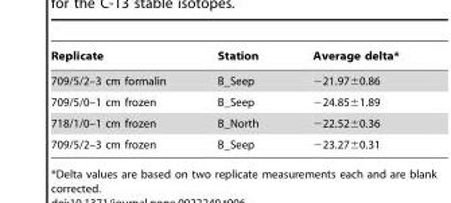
<table><thead><tr><td>Replicate</td><td>Station</td><td>Average delta*</td></tr></thead><tbody><tr><td>709/5/2–3 cm formalin</td><td>B_Seep</td><td>−21.97±0.86</td></tr><tr><td>709/5/0–1 cm frozen</td><td>B_Seep</td><td>−24.85±1.89</td></tr><tr><td>718/1/0–1 cm frozen</td><td>B_North</td><td>−22.52±0.36</td></tr><tr><td>709/5/2–3 cm frozen</td><td>B_Seep</td><td>−23.27±0.31</td></tr></tbody></table>